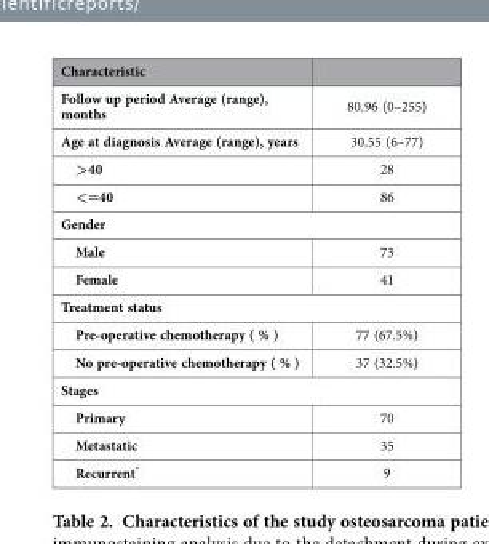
<table><thead><tr><td>Characteristic</td><td></td></tr></thead><tbody><tr><td>Follow up period Average (range), months</td><td>80.96 (0–255)</td></tr><tr><td>Age at diagnosis Average (range), years</td><td>30.55 (6–77)</td></tr><tr><td>&gt;40</td><td>28</td></tr><tr><td>&lt;=40</td><td>86</td></tr><tr><td colspan="2">Gender</td></tr><tr><td>Male</td><td>73</td></tr><tr><td>Female</td><td>41</td></tr><tr><td colspan="2">Treatment status</td></tr><tr><td>Pre-operative chemotherapy ( % )</td><td>77 (67.5%)</td></tr><tr><td>No pre-operative chemotherapy ( % )</td><td>37 (32.5%)</td></tr><tr><td colspan="2">Stages</td></tr><tr><td>Primary</td><td>70</td></tr><tr><td>Metastatic</td><td>35</td></tr><tr><td>Recurrent*</td><td>9</td></tr></tbody></table>